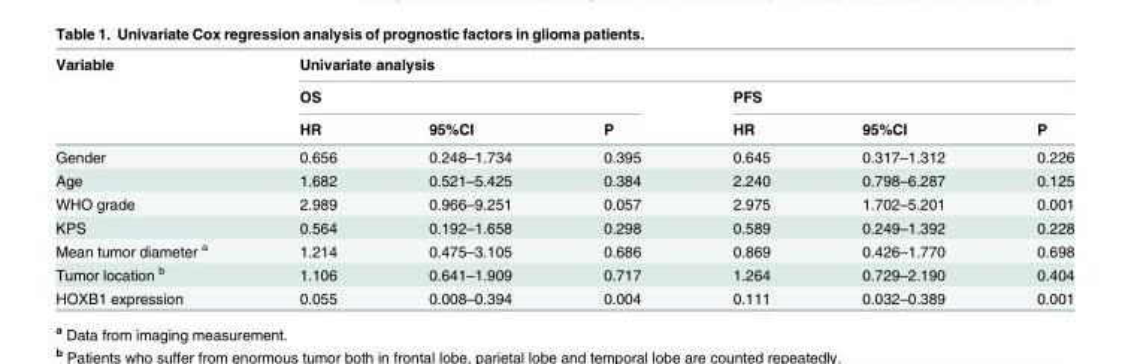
<table><thead><tr><td rowspan="3">Variable</td><td colspan="6">Univariate analysis</td></tr><tr><td colspan="3">OS</td><td colspan="3">PFS</td></tr><tr><td>HR</td><td>95%CI</td><td>P</td><td>HR</td><td>95%CI</td><td>P</td></tr></thead><tbody><tr><td>Gender</td><td>0.656</td><td>0.248–1.734</td><td>0.395</td><td>0.645</td><td>0.317–1.312</td><td>0.226</td></tr><tr><td>Age</td><td>1.682</td><td>0.521–5.425</td><td>0.384</td><td>2.240</td><td>0.798–6.287</td><td>0.125</td></tr><tr><td>WHO grade</td><td>2.989</td><td>0.966–9.251</td><td>0.057</td><td>2.975</td><td>1.702–5.201</td><td>0.001</td></tr><tr><td>KPS</td><td>0.564</td><td>0.192–1.658</td><td>0.298</td><td>0.589</td><td>0.249–1.392</td><td>0.228</td></tr><tr><td>Mean tumor diameter <sup>a</sup></td><td>1.214</td><td>0.475–3.105</td><td>0.686</td><td>0.869</td><td>0.426–1.770</td><td>0.698</td></tr><tr><td>Tumor location <sup>b</sup></td><td>1.106</td><td>0.641–1.909</td><td>0.717</td><td>1.264</td><td>0.729–2.190</td><td>0.404</td></tr><tr><td>HOXB1 expression</td><td>0.055</td><td>0.008–0.394</td><td>0.004</td><td>0.111</td><td>0.032–0.389</td><td>0.001</td></tr></tbody></table>